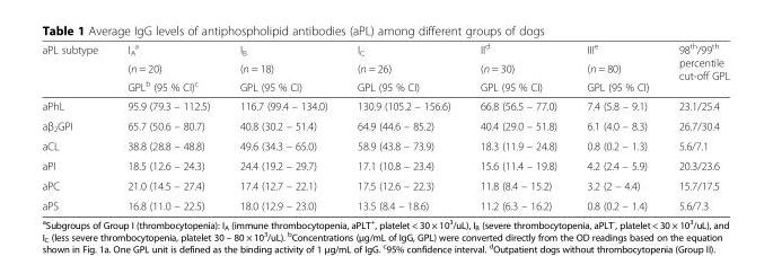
<table><thead><tr><td rowspan="3">aPL subtype</td><td rowspan="3">I<sub>A</sub> <sup>a</sup> (n = 20) GPL<sup>b</sup> (95 % CI)<sup>c</sup></td><td rowspan="3">I<sub>B</sub> (n = 18) GPL (95 % CI)</td><td rowspan="3">I<sub>C</sub> (n = 26) GPL (95 % CI)</td><td rowspan="3">II<sup>d</sup> (n = 30) GPL (95 % CI)</td><td rowspan="3">III<sup>e</sup> (n = 80) GPL (95 % CI)</td><td rowspan="3">98<sup>th</sup>/99<sup>th</sup> percentile cut-off GPL</td></tr><tr></tr><tr></tr></thead><tbody><tr><td>aPhL</td><td>95.9 (79.3 – 112.5)</td><td>116.7 (99.4 – 134.0)</td><td>130.9 (105.2 – 156.6)</td><td>66.8 (56.5 – 77.0)</td><td>7.4 (5.8 – 9.1)</td><td>23.1/25.4</td></tr><tr><td>aβ<sub>2</sub>GPI</td><td>65.7 (50.6 – 80.7)</td><td>40.8 (30.2 – 51.4)</td><td>64.9 (44.6 – 85.2)</td><td>40.4 (29.0 – 51.8)</td><td>6.1 (4.0 – 8.3)</td><td>26.7/30.4</td></tr><tr><td>aCL</td><td>38.8 (28.8 – 48.8)</td><td>49.6 (34.3 – 65.0)</td><td>58.9 (43.8 – 73.9)</td><td>18.3 (11.9 – 24.8)</td><td>0.8 (0.2 – 1.3)</td><td>5.6/7.1</td></tr><tr><td>aPI</td><td>18.5 (12.6 – 24.3)</td><td>24.4 (19.2 – 29.7)</td><td>17.1 (10.8 – 23.4)</td><td>15.6 (11.4 – 19.8)</td><td>4.2 (2.4 – 5.9)</td><td>20.3/23.6</td></tr><tr><td>aPC</td><td>21.0 (14.5 – 27.4)</td><td>17.4 (12.7 – 22.1)</td><td>17.5 (12.6 – 22.3)</td><td>11.8 (8.4 – 15.2)</td><td>3.2 (2 – 4.4)</td><td>15.7/17.5</td></tr><tr><td>aPS</td><td>16.8 (11.0 – 22.5)</td><td>18.0 (12.9 – 23.0)</td><td>13.5 (8.4 – 18.6)</td><td>11.2 (6.3 – 16.2)</td><td>0.8 (0.2 – 1.4)</td><td>5.6/7.3</td></tr></tbody></table>